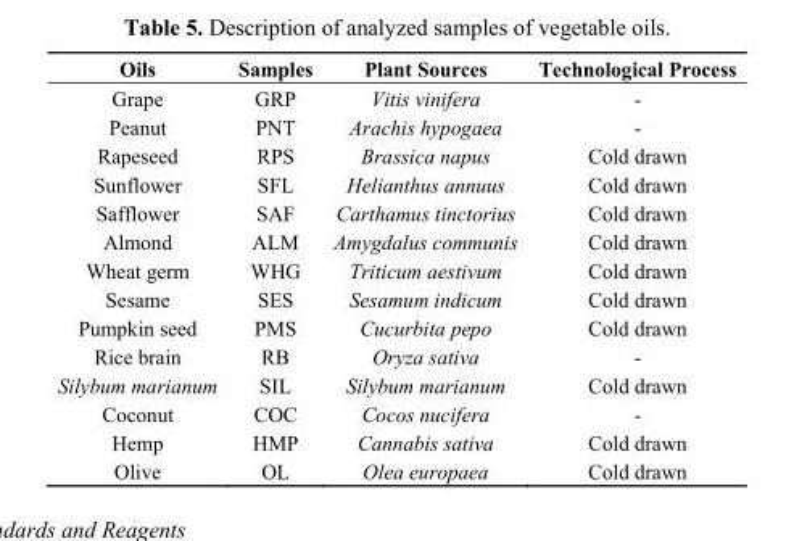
<table><thead><tr><td>Oils</td><td>Samples</td><td>Plant Sources</td><td>Technological Process</td></tr></thead><tbody><tr><td>Grape</td><td>GRP</td><td>Vitis vinifera</td><td>-</td></tr><tr><td>Peanut</td><td>PNT</td><td>Arachis hypogaea</td><td>-</td></tr><tr><td>Rapeseed</td><td>RPS</td><td>Brassica napus</td><td>Cold drawn</td></tr><tr><td>Sunflower</td><td>SFL</td><td>Helianthus annuus</td><td>Cold drawn</td></tr><tr><td>Safflower</td><td>SAF</td><td>Carthamus tinctorius</td><td>Cold drawn</td></tr><tr><td>Almond</td><td>ALM</td><td>Amygdalus communis</td><td>Cold drawn</td></tr><tr><td>Wheat germ</td><td>WHG</td><td>Triticum aestivum</td><td>Cold drawn</td></tr><tr><td>Sesame</td><td>SES</td><td>Sesamum indicum</td><td>Cold drawn</td></tr><tr><td>Pumpkin seed</td><td>PMS</td><td>Cucurbita pepo</td><td>Cold drawn</td></tr><tr><td>Rice brain</td><td>RB</td><td>Oryza sativa</td><td>-</td></tr><tr><td>Silybum marianum</td><td>SIL</td><td>Silybum marianum</td><td>Cold drawn</td></tr><tr><td>Coconut</td><td>COC</td><td>Cocos nucifera</td><td>-</td></tr><tr><td>Hemp</td><td>HMP</td><td>Cannabis sativa</td><td>Cold drawn</td></tr><tr><td>Olive</td><td>OL</td><td>Olea europaea</td><td>Cold drawn</td></tr></tbody></table>